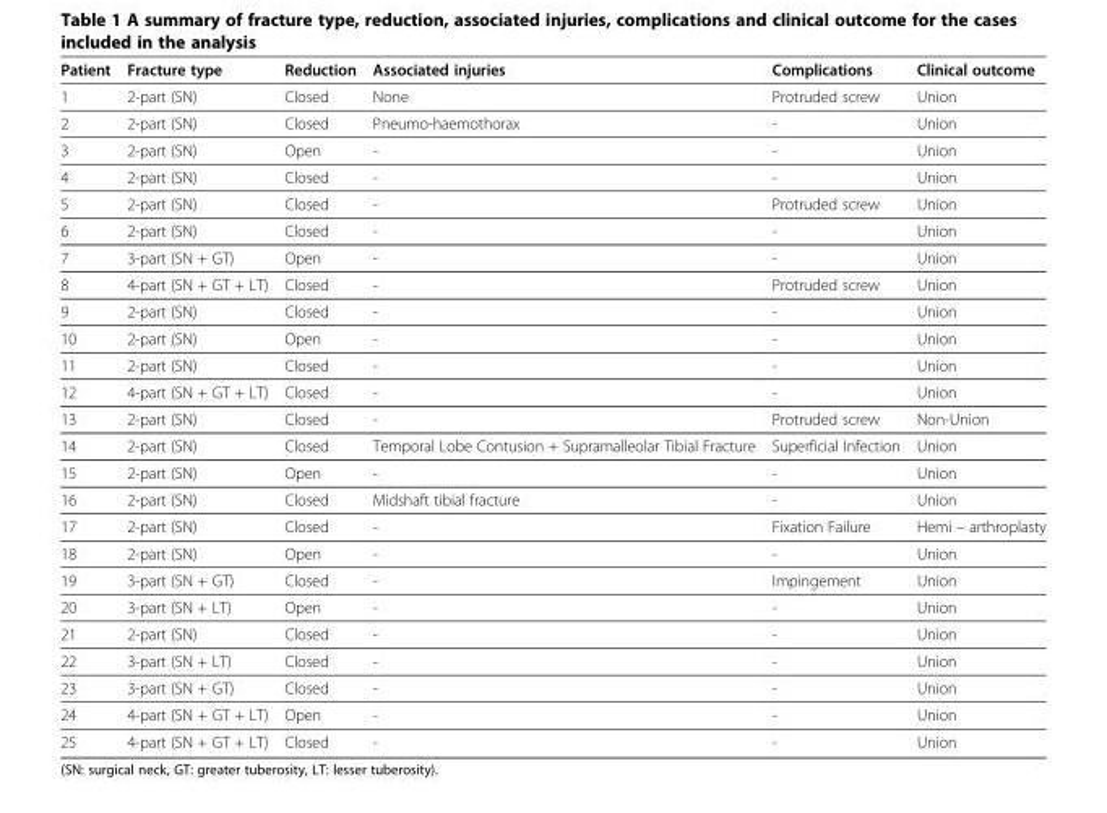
<table><thead><tr><td>Patient</td><td>Fracture type</td><td>Reduction</td><td>Associated injuries</td><td>Complications</td><td>Clinical outcome</td></tr></thead><tbody><tr><td>1</td><td>2-part (SN)</td><td>Closed</td><td>None</td><td>Protruded screw</td><td>Union</td></tr><tr><td>2</td><td>2-part (SN)</td><td>Closed</td><td>Pneumo-haemothorax</td><td>-</td><td>Union</td></tr><tr><td>3</td><td>2-part (SN)</td><td>Open</td><td>-</td><td>-</td><td>Union</td></tr><tr><td>4</td><td>2-part (SN)</td><td>Closed</td><td>-</td><td>-</td><td>Union</td></tr><tr><td>5</td><td>2-part (SN)</td><td>Closed</td><td>-</td><td>Protruded screw</td><td>Union</td></tr><tr><td>6</td><td>2-part (SN)</td><td>Closed</td><td>-</td><td>-</td><td>Union</td></tr><tr><td>7</td><td>3-part (SN + GT)</td><td>Open</td><td>-</td><td>-</td><td>Union</td></tr><tr><td>8</td><td>4-part (SN + GT + LT)</td><td>Closed</td><td>-</td><td>Protruded screw</td><td>Union</td></tr><tr><td>9</td><td>2-part (SN)</td><td>Closed</td><td>-</td><td>-</td><td>Union</td></tr><tr><td>10</td><td>2-part (SN)</td><td>Open</td><td>-</td><td>-</td><td>Union</td></tr><tr><td>11</td><td>2-part (SN)</td><td>Closed</td><td>-</td><td>-</td><td>Union</td></tr><tr><td>12</td><td>4-part (SN + GT + LT)</td><td>Closed</td><td>-</td><td>-</td><td>Union</td></tr><tr><td>13</td><td>2-part (SN)</td><td>Closed</td><td>-</td><td>Protruded screw</td><td>Non-Union</td></tr><tr><td>14</td><td>2-part (SN)</td><td>Closed</td><td>Temporal Lobe Contusion + Supramalleolar Tibial Fracture</td><td>Superficial Infection</td><td>Union</td></tr><tr><td>15</td><td>2-part (SN)</td><td>Open</td><td>-</td><td>-</td><td>Union</td></tr><tr><td>16</td><td>2-part (SN)</td><td>Closed</td><td>Midshaft tibial fracture</td><td>-</td><td>Union</td></tr><tr><td>17</td><td>2-part (SN)</td><td>Closed</td><td>-</td><td>Fixation Failure</td><td>Hemi – arthroplasty</td></tr><tr><td>18</td><td>2-part (SN)</td><td>Open</td><td>-</td><td>-</td><td>Union</td></tr><tr><td>19</td><td>3-part (SN + GT)</td><td>Closed</td><td>-</td><td>Impingement</td><td>Union</td></tr><tr><td>20</td><td>3-part (SN + LT)</td><td>Open</td><td>-</td><td>-</td><td>Union</td></tr><tr><td>21</td><td>2-part (SN)</td><td>Closed</td><td>-</td><td>-</td><td>Union</td></tr><tr><td>22</td><td>3-part (SN + LT)</td><td>Closed</td><td>-</td><td>-</td><td>Union</td></tr><tr><td>23</td><td>3-part (SN + GT)</td><td>Closed</td><td>-</td><td>-</td><td>Union</td></tr><tr><td>24</td><td>4-part (SN + GT + LT)</td><td>Open</td><td>-</td><td>-</td><td>Union</td></tr><tr><td>25</td><td>4-part (SN + GT + LT)</td><td>Closed</td><td>-</td><td>-</td><td>Union</td></tr></tbody></table>